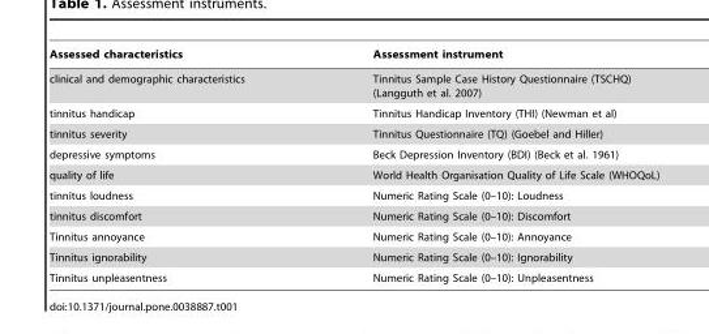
<table><thead><tr><td>Assessed characteristics</td><td>Assessment instrument</td></tr></thead><tbody><tr><td>clinical and demographic characteristics</td><td>Tinnitus Sample Case History Questionnaire (TSCHQ) (Langguth et al. 2007)</td></tr><tr><td>tinnitus handicap</td><td>Tinnitus Handicap Inventory (THI) (Newman et al)</td></tr><tr><td>tinnitus severity</td><td>Tinnitus Questionnaire (TQ) (Goebel and Hiller)</td></tr><tr><td>depressive symptoms</td><td>Beck Depression Inventory (BDI) (Beck et al. 1961)</td></tr><tr><td>quality of life</td><td>World Health Organisation Quality of Life Scale (WHOQoL)</td></tr><tr><td>tinnitus loudness</td><td>Numeric Rating Scale (0–10): Loudness</td></tr><tr><td>tinnitus discomfort</td><td>Numeric Rating Scale (0–10): Discomfort</td></tr><tr><td>Tinnitus annoyance</td><td>Numeric Rating Scale (0–10): Annoyance</td></tr><tr><td>Tinnitus ignorability</td><td>Numeric Rating Scale (0–10): Ignorability</td></tr><tr><td>Tinnitus unpleasentness</td><td>Numeric Rating Scale (0–10): Unpleasentness</td></tr></tbody></table>